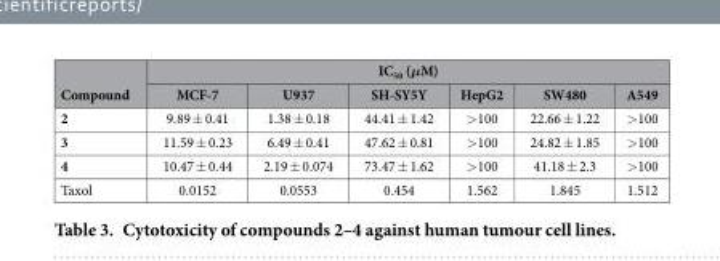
<table><thead><tr><td rowspan="2">Compound</td><td colspan="6">IC<sub>50</sub> (μM)</td></tr><tr><td>MCF-7</td><td>U937</td><td>SH-SY5Y</td><td>HepG2</td><td>SW480</td><td>A549</td></tr></thead><tbody><tr><td>2</td><td>9.89 ± 0.41</td><td>1.38 ± 0.18</td><td>44.41 ± 1.42</td><td>&gt;100</td><td>22.66 ± 1.22</td><td>&gt;100</td></tr><tr><td>3</td><td>11.59 ± 0.23</td><td>6.49 ± 0.41</td><td>47.62 ± 0.81</td><td>&gt;100</td><td>24.82 ± 1.85</td><td>&gt;100</td></tr><tr><td>4</td><td>10.47 ± 0.44</td><td>2.19 ± 0.074</td><td>73.47 ± 1.62</td><td>&gt;100</td><td>41.18 ± 2.3</td><td>&gt;100</td></tr><tr><td>Taxol</td><td>0.0152</td><td>0.0553</td><td>0.454</td><td>1.562</td><td>1.845</td><td>1.512</td></tr></tbody></table>